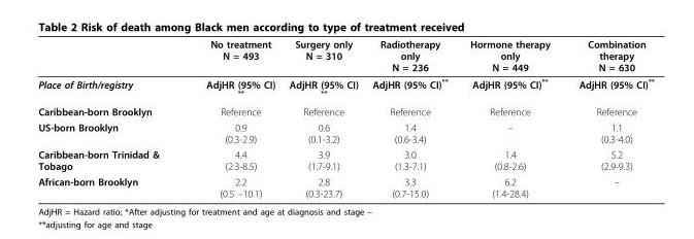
<table><thead><tr><td></td><td>No treatment N = 493</td><td>Surgery only N = 310</td><td>Radiotherapy only N = 236</td><td>Hormone therapy only N = 449</td><td>Combination therapy N = 630</td></tr></thead><tbody><tr><td>Place of Birth/registry</td><td>AdjHR (95% CI) **</td><td>AdjHR (95% CI) **</td><td>AdjHR (95% CI)**</td><td>AdjHR (95% CI)**</td><td>AdjHR (95% CI)**</td></tr><tr><td>Caribbean-born Brooklyn</td><td>Reference</td><td>Reference</td><td>Reference</td><td>Reference</td><td>Reference</td></tr><tr><td>US-born Brooklyn</td><td>0.9 (0.3-2.9)</td><td>0.6 (0.1-3.2)</td><td>1.4 (0.6-3.4)</td><td>–</td><td>1.1 (0.3-4.0)</td></tr><tr><td>Caribbean-born Trinidad &amp; Tobago</td><td>4.4 (2.3-8.5)</td><td>3.9 (1.7-9.1)</td><td>3.0 (1.3-7.1)</td><td>1.4 (0.8-2.6)</td><td>5.2 (2.9-9.3)</td></tr><tr><td>African-born Brooklyn</td><td>2.2 (0.5 –10.1)</td><td>2.8 (0.3-23.7)</td><td>3.3 (0.7-15.0)</td><td>6.2 (1.4-28.4)</td><td>–</td></tr></tbody></table>